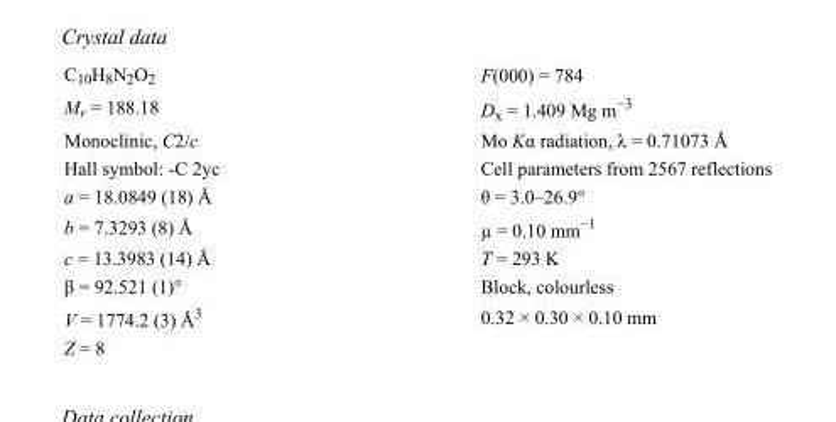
<table><tbody><tr><td>C<sub>10</sub>H<sub>8</sub>N<sub>2</sub>O<sub>2</sub></td><td>F(000) = 784</td></tr><tr><td>M<sub>r</sub> = 188.18</td><td>D<sub>x</sub> = 1.409 Mg m<sup>−3</sup></td></tr><tr><td>Monoclinic, C2/c</td><td>Mo Kα radiation, λ = 0.71073 Å</td></tr><tr><td>Hall symbol: -C 2yc</td><td>Cell parameters from 2567 reflections</td></tr><tr><td>a = 18.0849 (18) Å</td><td>θ = 3.0–26.9°</td></tr><tr><td>b = 7.3293 (8) Å</td><td>µ = 0.10 mm<sup>−1</sup></td></tr><tr><td>c = 13.3983 (14) Å</td><td>T = 293 K</td></tr><tr><td>β = 92.521 (1)°</td><td>Block, colourless</td></tr><tr><td>V = 1774.2 (3) Å<sup>3</sup></td><td>0.32 × 0.30 × 0.10 mm</td></tr><tr><td>Z = 8</td><td></td></tr></tbody></table>